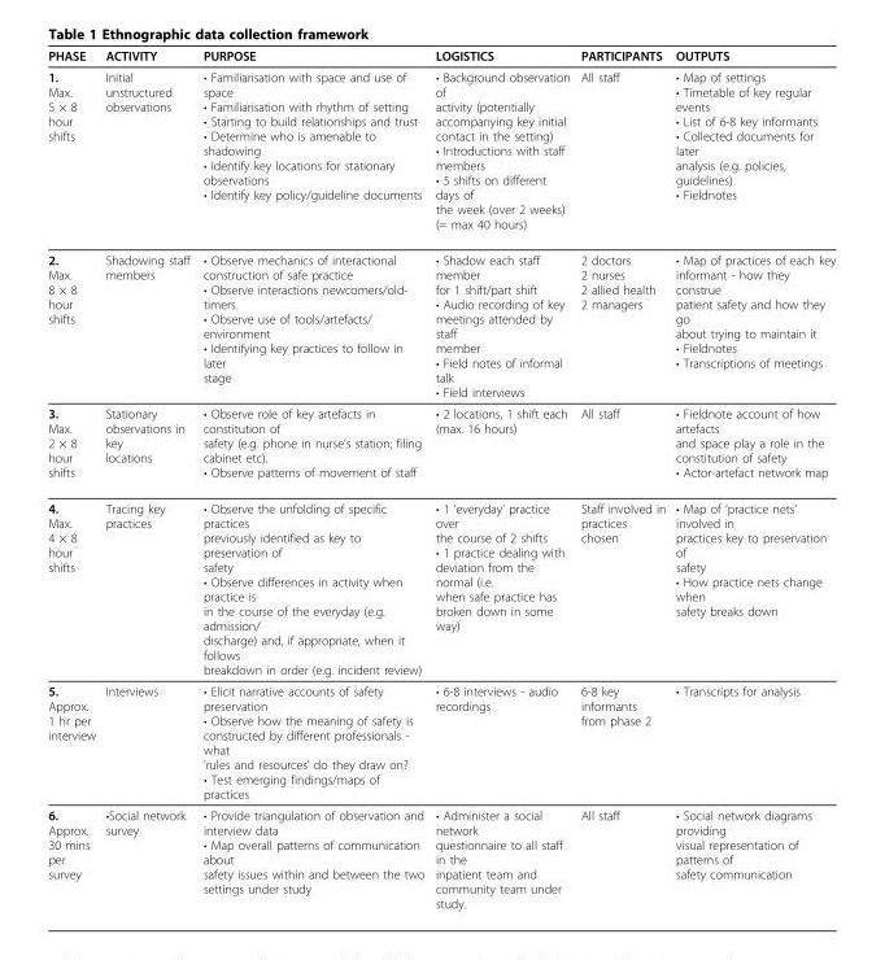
<table><thead><tr><td>PHASE</td><td>ACTIVITY</td><td>PURPOSE</td><td>LOGISTICS</td><td>PARTICIPANTS</td><td>OUTPUTS</td></tr></thead><tbody><tr><td>1. Max. 5 × 8 hour shifts</td><td>Initial unstructured observations</td><td>• Familiarisation with space and use of space • Familiarisation with rhythm of setting • Starting to build relationships and trust • Determine who is amenable to shadowing • Identify key locations for stationary observations • Identify key policy/guideline documents</td><td>• Background observation of activity (potentially accompanying key initial contact in the setting) • Introductions with staff members • 5 shifts on different days of the week (over 2 weeks) (= max 40 hours)</td><td>All staff</td><td>• Map of settings • Timetable of key regular events • List of 6-8 key informants • Collected documents for later analysis (e.g. policies, guidelines) • Fieldnotes</td></tr><tr><td>2. Max. 8 × 8 hour shifts</td><td>Shadowing staff members</td><td>• Observe mechanics of interactional construction of safe practice • Observe interactions newcomers/old- timers • Observe use of tools/artefacts/ environment • Identifying key practices to follow in later stage</td><td>• Shadow each staff member for 1 shift/part shift • Audio recording of key meetings attended by staff member • Field notes of informal talk • Field interviews</td><td>2 doctors 2 nurses 2 allied health 2 managers</td><td>• Map of practices of each key informant - how they construe patient safety and how they go about trying to maintain it • Fieldnotes • Transcriptions of meetings</td></tr><tr><td>3. Max. 2 × 8 hour shifts</td><td>Stationary observations in key locations</td><td>• Observe role of key artefacts in constitution of safety (e.g. phone in nurse’s station; filing cabinet etc). • Observe patterns of movement of staff</td><td>• 2 locations, 1 shift each (max. 16 hours)</td><td>All staff</td><td>• Fieldnote account of how artefacts and space play a role in the constitution of safety • Actor-artefact network map</td></tr><tr><td>4. Max. 4 × 8 hour shifts</td><td>Tracing key practices</td><td>• Observe the unfolding of specific practices previously identified as key to preservation of safety • Observe differences in activity when practice is in the course of the everyday (e.g. admission/ discharge) and, if appropriate, when it follows breakdown in order (e.g. incident review)</td><td>• 1 ‘everyday’ practice over the course of 2 shifts • 1 practice dealing with deviation from the normal (i.e. when safe practice has broken down in some way)</td><td>Staff involved in practices chosen</td><td>• Map of ‘practice nets’ involved in practices key to preservation of safety • How practice nets change when safety breaks down</td></tr><tr><td>5. Approx. 1 hr per interview</td><td>Interviews</td><td>• Elicit narrative accounts of safety preservation • Observe how the meaning of safety is constructed by different professionals - what ’rules and resources’ do they draw on? • Test emerging findings/maps of practices</td><td>• 6-8 interviews - audio recordings</td><td>6-8 key informants from phase 2</td><td>• Transcripts for analysis</td></tr><tr><td>6. Approx. 30 mins per survey</td><td>•Social network survey</td><td>• Provide triangulation of observation and interview data • Map overall patterns of communication about safety issues within and between the two settings under study</td><td>• Administer a social network questionnaire to all staff in the inpatient team and community team under study.</td><td>All staff</td><td>• Social network diagrams providing visual representation of patterns of safety communication</td></tr></tbody></table>